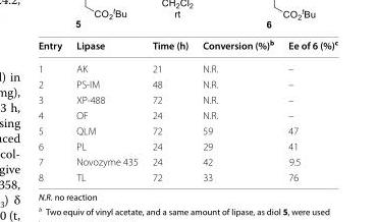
<table><thead><tr><td>Entry</td><td>Lipase</td><td>Time (h)</td><td>Conversion (%)<sup>b</sup></td><td>Ee of 6 (%)<sup>c</sup></td></tr></thead><tbody><tr><td>1</td><td>AK</td><td>21</td><td>N.R.</td><td>–</td></tr><tr><td>2</td><td>PS-IM</td><td>48</td><td>N.R.</td><td>–</td></tr><tr><td>3</td><td>XP-488</td><td>72</td><td>N.R.</td><td>–</td></tr><tr><td>4</td><td>OF</td><td>24</td><td>N.R.</td><td>–</td></tr><tr><td>5</td><td>QLM</td><td>72</td><td>59</td><td>47</td></tr><tr><td>6</td><td>PL</td><td>24</td><td>29</td><td>41</td></tr><tr><td>7</td><td>Novozyme 435</td><td>24</td><td>42</td><td>9.5</td></tr><tr><td>8</td><td>TL</td><td>72</td><td>33</td><td>76</td></tr></tbody></table>